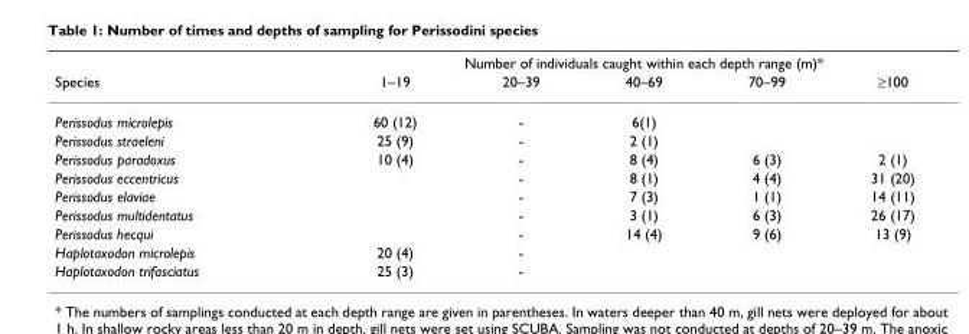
<table><thead><tr><td rowspan="2">Species</td><td colspan="5">Number of individuals caught within each depth range (m)*</td></tr><tr><td>1–19</td><td>20–39</td><td>40–69</td><td>70–99</td><td>≥100</td></tr></thead><tbody><tr><td>Perissodus microlepis</td><td>60 (12)</td><td>-</td><td>6(1)</td><td></td><td></td></tr><tr><td>Perissodus straeleni</td><td>25 (9)</td><td>-</td><td>2 (1)</td><td></td><td></td></tr><tr><td>Perissodus paradoxus</td><td>10 (4)</td><td>-</td><td>8 (4)</td><td>6 (3)</td><td>2 (1)</td></tr><tr><td>Perissodus eccentricus</td><td></td><td>-</td><td>8 (1)</td><td>4 (4)</td><td>31 (20)</td></tr><tr><td>Perissodus elaviae</td><td></td><td>-</td><td>7 (3)</td><td>1 (1)</td><td>14 (11)</td></tr><tr><td>Perissodus multidentatus</td><td></td><td>-</td><td>3 (1)</td><td>6 (3)</td><td>26 (17)</td></tr><tr><td>Perissodus hecqui</td><td></td><td>-</td><td>14 (4)</td><td>9 (6)</td><td>13 (9)</td></tr><tr><td>Haplotaxodon microlepis</td><td>20 (4)</td><td>-</td><td></td><td></td><td></td></tr><tr><td>Haplotaxodon trifasciatus</td><td>25 (3)</td><td>-</td><td></td><td></td><td></td></tr></tbody></table>